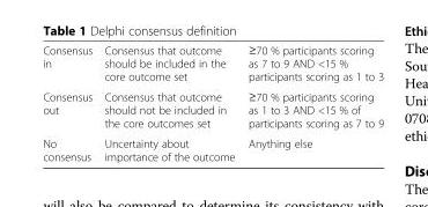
<table><tbody><tr><td>Consensus in</td><td>Consensus that outcome should be included in the core outcome set</td><td>≥70 % participants scoring as 7 to 9 AND &lt;15 % participants scoring as 1 to 3</td></tr><tr><td>Consensus out</td><td>Consensus that outcome should not be included in the core outcomes set</td><td>≥70 % participants scoring as 1 to 3 AND &lt;15 % of participants scoring as 7 to 9</td></tr><tr><td>No consensus</td><td>Uncertainty about importance of the outcome</td><td>Anything else</td></tr></tbody></table>